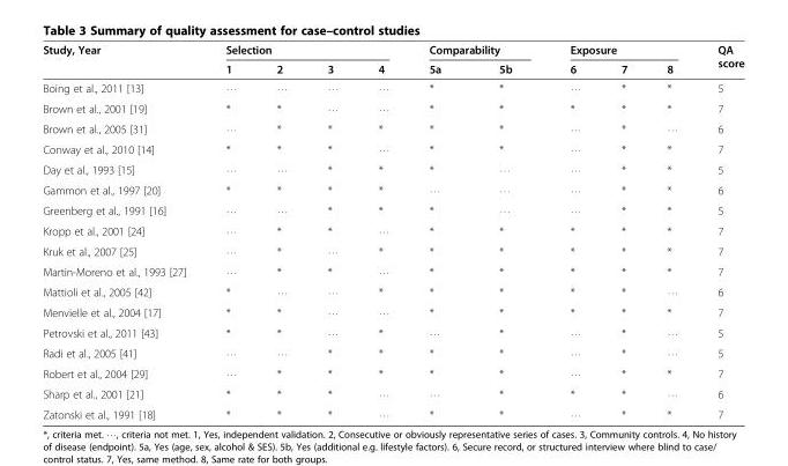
<table><thead><tr><td rowspan="2">Study, Year</td><td colspan="4">Selection</td><td colspan="2">Comparability</td><td colspan="3">Exposure</td><td rowspan="2">QA score</td></tr><tr><td>1</td><td>2</td><td>3</td><td>4</td><td>5a</td><td>5b</td><td>6</td><td>7</td><td>8</td></tr></thead><tbody><tr><td>Boing et al., 2011 [13]</td><td>⋅⋅⋅</td><td>⋅⋅⋅</td><td>⋅⋅⋅</td><td>⋅⋅⋅</td><td>*</td><td>*</td><td>⋅⋅⋅</td><td>*</td><td>*</td><td>5</td></tr><tr><td>Brown et al., 2001 [19]</td><td>*</td><td>*</td><td>⋅⋅⋅</td><td>⋅⋅⋅</td><td>*</td><td>*</td><td>*</td><td>*</td><td>*</td><td>7</td></tr><tr><td>Brown et al., 2005 [31]</td><td>⋅⋅⋅</td><td>*</td><td>*</td><td>*</td><td>*</td><td>*</td><td>⋅⋅⋅</td><td>*</td><td>⋅⋅⋅</td><td>6</td></tr><tr><td>Conway et al., 2010 [14]</td><td>*</td><td>*</td><td>*</td><td>⋅⋅⋅</td><td>*</td><td>*</td><td>⋅⋅⋅</td><td>*</td><td>*</td><td>7</td></tr><tr><td>Day et al., 1993 [15]</td><td>⋅⋅⋅</td><td>⋅⋅⋅</td><td>*</td><td>*</td><td>*</td><td>⋅⋅⋅</td><td>⋅⋅⋅</td><td>*</td><td>*</td><td>5</td></tr><tr><td>Gammon et al., 1997 [20]</td><td>*</td><td>*</td><td>*</td><td>*</td><td>⋅⋅⋅</td><td>⋅⋅⋅</td><td>⋅⋅⋅</td><td>*</td><td>*</td><td>6</td></tr><tr><td>Greenberg et al., 1991 [16]</td><td>⋅⋅⋅</td><td>⋅⋅⋅</td><td>*</td><td>*</td><td>*</td><td>⋅⋅⋅</td><td>⋅⋅⋅</td><td>*</td><td>*</td><td>5</td></tr><tr><td>Kropp et al., 2001 [24]</td><td>⋅⋅⋅</td><td>*</td><td>*</td><td>⋅⋅⋅</td><td>*</td><td>*</td><td>*</td><td>*</td><td>*</td><td>7</td></tr><tr><td>Kruk et al., 2007 [25]</td><td>⋅⋅⋅</td><td>*</td><td>⋅⋅⋅</td><td>*</td><td>*</td><td>*</td><td>*</td><td>*</td><td>*</td><td>7</td></tr><tr><td>Martin-Moreno et al., 1993 [27]</td><td>⋅⋅⋅</td><td>*</td><td>*</td><td>⋅⋅⋅</td><td>*</td><td>*</td><td>*</td><td>*</td><td>*</td><td>7</td></tr><tr><td>Mattioli et al., 2005 [42]</td><td>*</td><td>⋅⋅⋅</td><td>⋅⋅⋅</td><td>*</td><td>*</td><td>*</td><td>*</td><td>*</td><td>⋅⋅⋅</td><td>6</td></tr><tr><td>Menvielle et al., 2004 [17]</td><td>*</td><td>*</td><td>⋅⋅⋅</td><td>⋅⋅⋅</td><td>*</td><td>*</td><td>*</td><td>*</td><td>*</td><td>7</td></tr><tr><td>Petrovski et al., 2011 [43]</td><td>*</td><td>*</td><td>⋅⋅⋅</td><td>*</td><td>⋅⋅⋅</td><td>*</td><td>⋅⋅⋅</td><td>*</td><td>⋅⋅⋅</td><td>5</td></tr><tr><td>Radi et al., 2005 [41]</td><td>⋅⋅⋅</td><td>⋅⋅⋅</td><td>*</td><td>*</td><td>*</td><td>*</td><td>⋅⋅⋅</td><td>*</td><td>⋅⋅⋅</td><td>5</td></tr><tr><td>Robert et al., 2004 [29]</td><td>⋅⋅⋅</td><td>*</td><td>*</td><td>*</td><td>*</td><td>*</td><td>⋅⋅⋅</td><td>*</td><td>*</td><td>7</td></tr><tr><td>Sharp et al., 2001 [21]</td><td>*</td><td>*</td><td>*</td><td>⋅⋅⋅</td><td>⋅⋅⋅</td><td>*</td><td>*</td><td>*</td><td>⋅⋅⋅</td><td>6</td></tr><tr><td>Zatonski et al., 1991 [18]</td><td>*</td><td>*</td><td>*</td><td>⋅⋅⋅</td><td>*</td><td>*</td><td>⋅⋅⋅</td><td>*</td><td>*</td><td>7</td></tr></tbody></table>